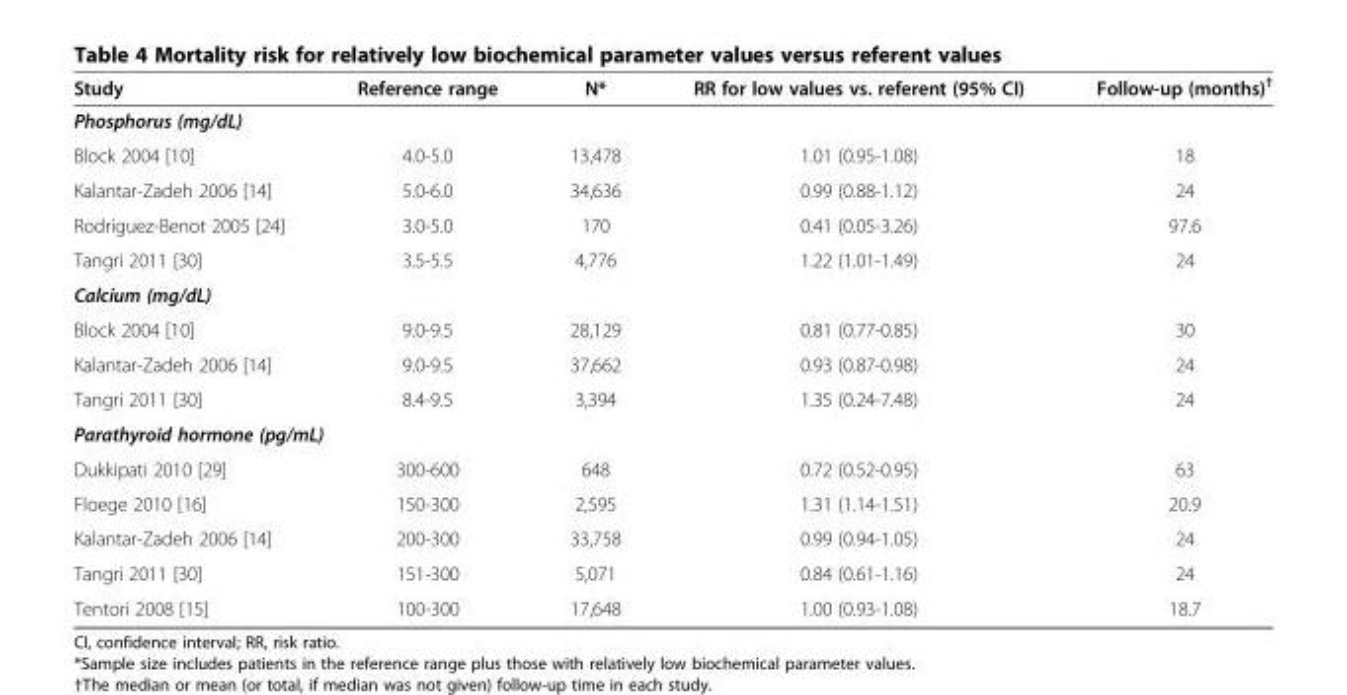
<table><thead><tr><td>Study</td><td>Reference range</td><td>N*</td><td>RR for low values vs. referent (95% CI)</td><td>Follow-up (months)<sup>†</sup></td></tr></thead><tbody><tr><td colspan="5">Phosphorus (mg/dL)</td></tr><tr><td>Block 2004 [10]</td><td>4.0-5.0</td><td>13,478</td><td>1.01 (0.95-1.08)</td><td>18</td></tr><tr><td>Kalantar-Zadeh 2006 [14]</td><td>5.0-6.0</td><td>34,636</td><td>0.99 (0.88-1.12)</td><td>24</td></tr><tr><td>Rodriguez-Benot 2005 [24]</td><td>3.0-5.0</td><td>170</td><td>0.41 (0.05-3.26)</td><td>97.6</td></tr><tr><td>Tangri 2011 [30]</td><td>3.5-5.5</td><td>4,776</td><td>1.22 (1.01-1.49)</td><td>24</td></tr><tr><td colspan="5">Calcium (mg/dL)</td></tr><tr><td>Block 2004 [10]</td><td>9.0-9.5</td><td>28,129</td><td>0.81 (0.77-0.85)</td><td>30</td></tr><tr><td>Kalantar-Zadeh 2006 [14]</td><td>9.0-9.5</td><td>37,662</td><td>0.93 (0.87-0.98)</td><td>24</td></tr><tr><td>Tangri 2011 [30]</td><td>8.4-9.5</td><td>3,394</td><td>1.35 (0.24-7.48)</td><td>24</td></tr><tr><td colspan="5">Parathyroid hormone (pg/mL)</td></tr><tr><td>Dukkipati 2010 [29]</td><td>300-600</td><td>648</td><td>0.72 (0.52-0.95)</td><td>63</td></tr><tr><td>Floege 2010 [16]</td><td>150-300</td><td>2,595</td><td>1.31 (1.14-1.51)</td><td>20.9</td></tr><tr><td>Kalantar-Zadeh 2006 [14]</td><td>200-300</td><td>33,758</td><td>0.99 (0.94-1.05)</td><td>24</td></tr><tr><td>Tangri 2011 [30]</td><td>151-300</td><td>5,071</td><td>0.84 (0.61-1.16)</td><td>24</td></tr><tr><td>Tentori 2008 [15]</td><td>100-300</td><td>17,648</td><td>1.00 (0.93-1.08)</td><td>18.7</td></tr></tbody></table>